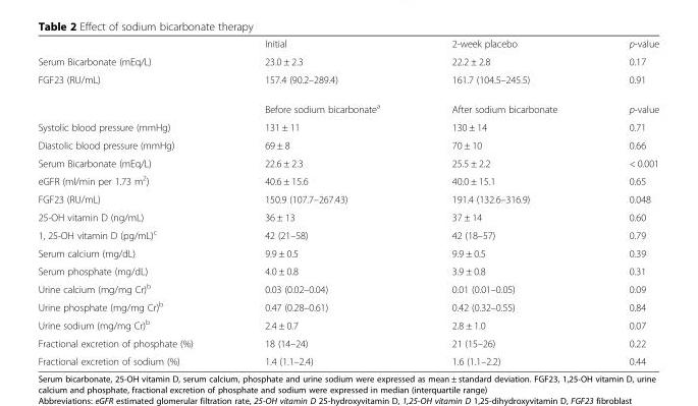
<table><thead><tr><td></td><td>Initial</td><td>2-week placebo</td><td>p-value</td></tr></thead><tbody><tr><td>Serum Bicarbonate (mEq/L)</td><td>23.0 ± 2.3</td><td>22.2 ± 2.8</td><td>0.17</td></tr><tr><td rowspan="2">FGF23 (RU/mL)</td><td>157.4 (90.2–289.4)</td><td>161.7 (104.5–245.5)</td><td>0.91</td></tr><tr><td>Before sodium bicarbonate<sup>a</sup></td><td>After sodium bicarbonate</td><td>p-value</td></tr><tr><td>Systolic blood pressure (mmHg)</td><td>131 ± 11</td><td>130 ± 14</td><td>0.71</td></tr><tr><td>Diastolic blood pressure (mmHg)</td><td>69 ± 8</td><td>70 ± 10</td><td>0.66</td></tr><tr><td>Serum Bicarbonate (mEq/L)</td><td>22.6 ± 2.3</td><td>25.5 ± 2.2</td><td>&lt; 0.001</td></tr><tr><td>eGFR (ml/min per 1.73 m<sup>2</sup>)</td><td>40.6 ± 15.6</td><td>40.0 ± 15.1</td><td>0.65</td></tr><tr><td>FGF23 (RU/mL)</td><td>150.9 (107.7–267.43)</td><td>191.4 (132.6–316.9)</td><td>0.048</td></tr><tr><td>25-OH vitamin D (ng/mL)</td><td>36 ± 13</td><td>37 ± 14</td><td>0.60</td></tr><tr><td>1, 25-OH vitamin D (pg/mL)<sup>c</sup></td><td>42 (21–58)</td><td>42 (18–57)</td><td>0.79</td></tr><tr><td>Serum calcium (mg/dL)</td><td>9.9 ± 0.5</td><td>9.9 ± 0.5</td><td>0.39</td></tr><tr><td>Serum phosphate (mg/dL)</td><td>4.0 ± 0.8</td><td>3.9 ± 0.8</td><td>0.31</td></tr><tr><td>Urine calcium (mg/mg Cr)<sup>b</sup></td><td>0.03 (0.02–0.04)</td><td>0.01 (0.01–0.05)</td><td>0.09</td></tr><tr><td>Urine phosphate (mg/mg Cr)<sup>b</sup></td><td>0.47 (0.28–0.61)</td><td>0.42 (0.32–0.55)</td><td>0.84</td></tr><tr><td>Urine sodium (mg/mg Cr)<sup>b</sup></td><td>2.4 ± 0.7</td><td>2.8 ± 1.0</td><td>0.07</td></tr><tr><td>Fractional excretion of phosphate (%)</td><td>18 (14–24)</td><td>21 (15–26)</td><td>0.22</td></tr><tr><td>Fractional excretion of sodium (%)</td><td>1.4 (1.1–2.4)</td><td>1.6 (1.1–2.2)</td><td>0.44</td></tr></tbody></table>